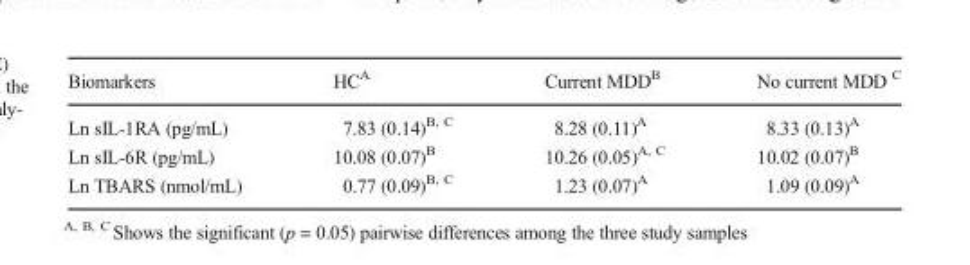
<table><thead><tr><td>Biomarkers</td><td>HC<sup>A</sup></td><td>Current MDD<sup>B</sup></td><td>No current MDD <sup>C</sup></td></tr></thead><tbody><tr><td>Ln sIL-1RA (pg/mL)</td><td>7.83 (0.14)<sup>B, C</sup></td><td>8.28 (0.11)<sup>A</sup></td><td>8.33 (0.13)<sup>A</sup></td></tr><tr><td>Ln sIL-6R (pg/mL)</td><td>10.08 (0.07)<sup>B</sup></td><td>10.26 (0.05)<sup>A, C</sup></td><td>10.02 (0.07)<sup>B</sup></td></tr><tr><td>Ln TBARS (nmol/mL)</td><td>0.77 (0.09)<sup>B, C</sup></td><td>1.23 (0.07)<sup>A</sup></td><td>1.09 (0.09)<sup>A</sup></td></tr></tbody></table>